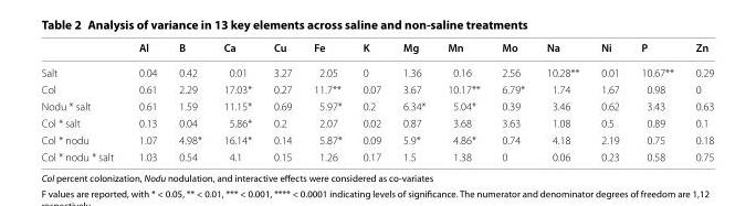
<table><thead><tr><td></td><td>Al</td><td>B</td><td>Ca</td><td>Cu</td><td>Fe</td><td>K</td><td>Mg</td><td>Mn</td><td>Mo</td><td>Na</td><td>Ni</td><td>P</td><td>Zn</td></tr></thead><tbody><tr><td>Salt</td><td>0.04</td><td>0.42</td><td>0.01</td><td>3.27</td><td>2.05</td><td>0</td><td>1.36</td><td>0.16</td><td>2.56</td><td>10.28**</td><td>0.01</td><td>10.67**</td><td>0.29</td></tr><tr><td>Col</td><td>0.61</td><td>2.29</td><td>17.03*</td><td>0.27</td><td>11.7**</td><td>0.07</td><td>3.67</td><td>10.17**</td><td>6.79*</td><td>1.74</td><td>1.67</td><td>0.98</td><td>0</td></tr><tr><td>Nodu * salt</td><td>0.61</td><td>1.59</td><td>11.15*</td><td>0.69</td><td>5.97*</td><td>0.2</td><td>6.34*</td><td>5.04*</td><td>0.39</td><td>3.46</td><td>0.62</td><td>3.43</td><td>0.63</td></tr><tr><td>Col * salt</td><td>0.13</td><td>0.04</td><td>5.86*</td><td>0.2</td><td>2.07</td><td>0.02</td><td>0.87</td><td>3.68</td><td>3.63</td><td>1.08</td><td>0.5</td><td>0.89</td><td>0.1</td></tr><tr><td>Col * nodu</td><td>1.07</td><td>4.98*</td><td>16.14*</td><td>0.14</td><td>5.87*</td><td>0.09</td><td>5.9*</td><td>4.86*</td><td>0.74</td><td>4.18</td><td>2.19</td><td>0.75</td><td>0.18</td></tr><tr><td>Col * nodu * salt</td><td>1.03</td><td>0.54</td><td>4.1</td><td>0.15</td><td>1.26</td><td>0.17</td><td>1.5</td><td>1.38</td><td>0</td><td>0.06</td><td>0.23</td><td>0.58</td><td>0.75</td></tr></tbody></table>